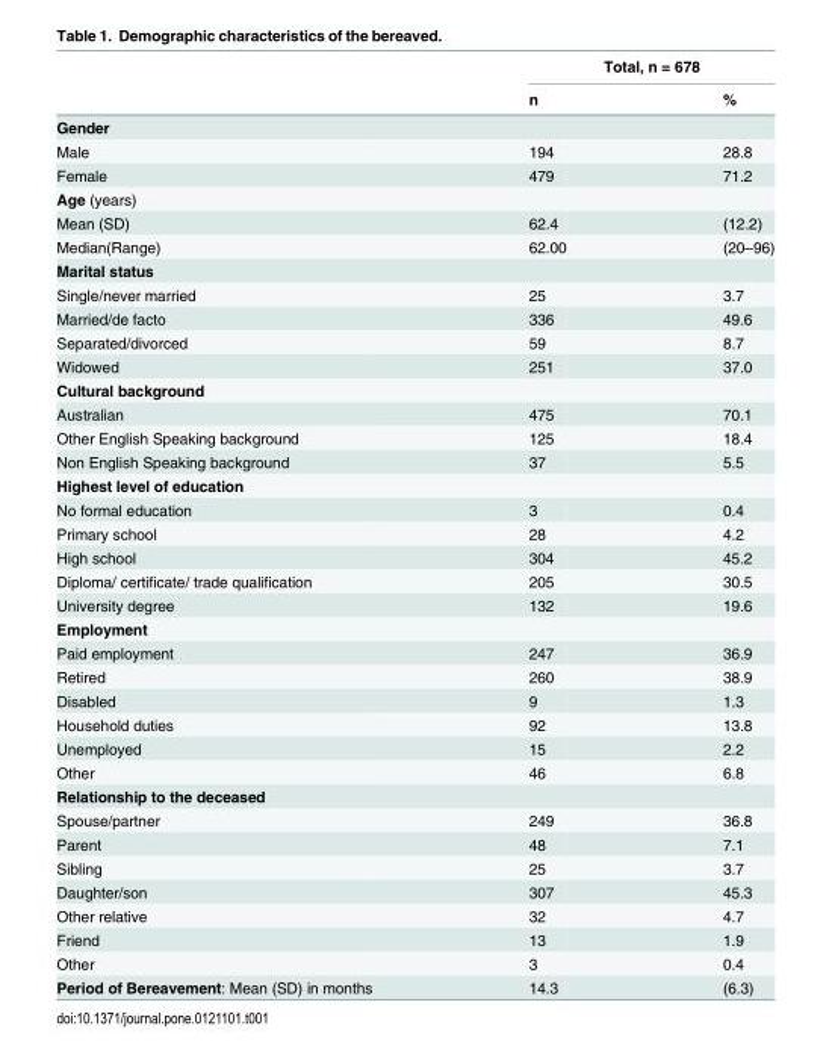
<table><thead><tr><td rowspan="2"></td><td colspan="2">Total, n = 678</td></tr><tr><td>n</td><td>%</td></tr></thead><tbody><tr><td colspan="3">Gender</td></tr><tr><td>Male</td><td>194</td><td>28.8</td></tr><tr><td>Female</td><td>479</td><td>71.2</td></tr><tr><td colspan="3">Age (years)</td></tr><tr><td>Mean (SD)</td><td>62.4</td><td>(12.2)</td></tr><tr><td>Median(Range)</td><td>62.00</td><td>(20–96)</td></tr><tr><td colspan="3">Marital status</td></tr><tr><td>Single/never married</td><td>25</td><td>3.7</td></tr><tr><td>Married/de facto</td><td>336</td><td>49.6</td></tr><tr><td>Separated/divorced</td><td>59</td><td>8.7</td></tr><tr><td>Widowed</td><td>251</td><td>37.0</td></tr><tr><td colspan="3">Cultural background</td></tr><tr><td>Australian</td><td>475</td><td>70.1</td></tr><tr><td>Other English Speaking background</td><td>125</td><td>18.4</td></tr><tr><td>Non English Speaking background</td><td>37</td><td>5.5</td></tr><tr><td colspan="3">Highest level of education</td></tr><tr><td>No formal education</td><td>3</td><td>0.4</td></tr><tr><td>Primary school</td><td>28</td><td>4.2</td></tr><tr><td>High school</td><td>304</td><td>45.2</td></tr><tr><td>Diploma/ certificate/ trade qualification</td><td>205</td><td>30.5</td></tr><tr><td>University degree</td><td>132</td><td>19.6</td></tr><tr><td colspan="3">Employment</td></tr><tr><td>Paid employment</td><td>247</td><td>36.9</td></tr><tr><td>Retired</td><td>260</td><td>38.9</td></tr><tr><td>Disabled</td><td>9</td><td>1.3</td></tr><tr><td>Household duties</td><td>92</td><td>13.8</td></tr><tr><td>Unemployed</td><td>15</td><td>2.2</td></tr><tr><td>Other</td><td>46</td><td>6.8</td></tr><tr><td colspan="3">Relationship to the deceased</td></tr><tr><td>Spouse/partner</td><td>249</td><td>36.8</td></tr><tr><td>Parent</td><td>48</td><td>7.1</td></tr><tr><td>Sibling</td><td>25</td><td>3.7</td></tr><tr><td>Daughter/son</td><td>307</td><td>45.3</td></tr><tr><td>Other relative</td><td>32</td><td>4.7</td></tr><tr><td>Friend</td><td>13</td><td>1.9</td></tr><tr><td>Other</td><td>3</td><td>0.4</td></tr><tr><td>Period of Bereavement: Mean (SD) in months</td><td>14.3</td><td>(6.3)</td></tr></tbody></table>